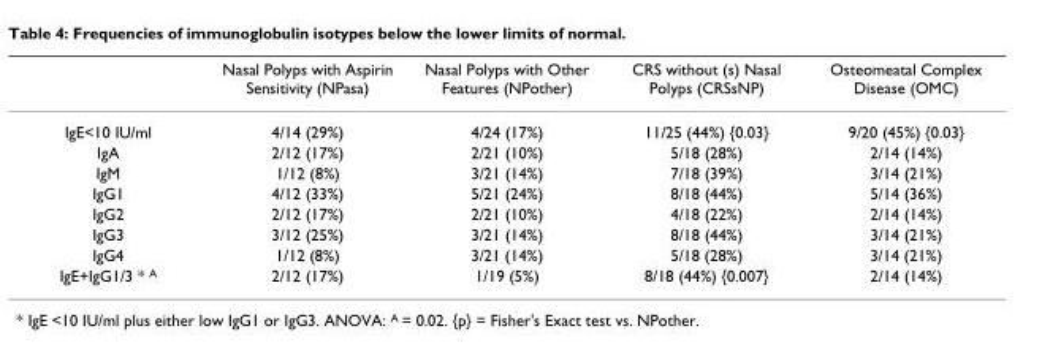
<table><thead><tr><td></td><td>Nasal Polyps with Aspirin Sensitivity (NPasa)</td><td>Nasal Polyps with Other Features (NPother)</td><td>CRS without (s) Nasal Polyps (CRSsNP)</td><td>Osteomeatal Complex Disease (OMC)</td></tr></thead><tbody><tr><td>IgE&lt;10 IU/ml</td><td>4/14 (29%)</td><td>4/24 (17%)</td><td>11/25 (44%) {0.03}</td><td>9/20 (45%) {0.03}</td></tr><tr><td>IgA</td><td>2/12 (17%)</td><td>2/21 (10%)</td><td>5/18 (28%)</td><td>2/14 (14%)</td></tr><tr><td>IgM</td><td>1/12 (8%)</td><td>3/21 (14%)</td><td>7/18 (39%)</td><td>3/14 (21%)</td></tr><tr><td>IgG1</td><td>4/12 (33%)</td><td>5/21 (24%)</td><td>8/18 (44%)</td><td>5/14 (36%)</td></tr><tr><td>IgG2</td><td>2/12 (17%)</td><td>2/21 (10%)</td><td>4/18 (22%)</td><td>2/14 (14%)</td></tr><tr><td>IgG3</td><td>3/12 (25%)</td><td>3/21 (14%)</td><td>8/18 (44%)</td><td>3/14 (21%)</td></tr><tr><td>IgG4</td><td>1/12 (8%)</td><td>3/21 (14%)</td><td>5/18 (28%)</td><td>3/14 (21%)</td></tr><tr><td>IgE+IgG1/3 * <sup>A</sup></td><td>2/12 (17%)</td><td>1/19 (5%)</td><td>8/18 (44%) {0.007}</td><td>2/14 (14%)</td></tr></tbody></table>